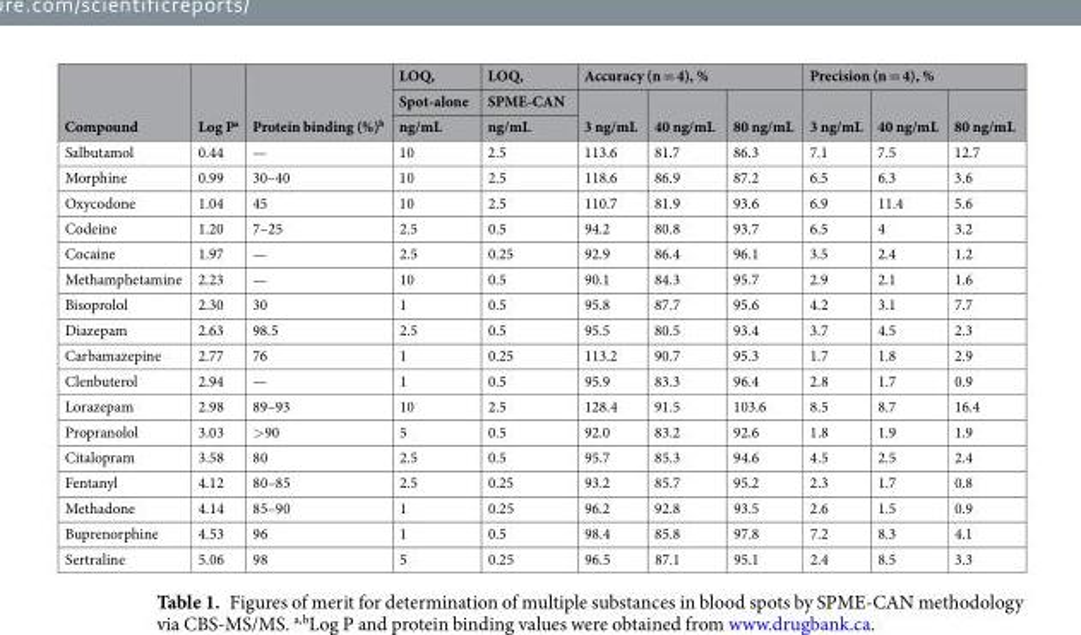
<table><thead><tr><td rowspan="3">Compound</td><td rowspan="3">Log P<sup>a</sup></td><td rowspan="3">Protein binding (%)<sup>b</sup></td><td rowspan="3">LOQ, Spot-alone ng/mL</td><td rowspan="3">LOQ, SPME-CAN ng/mL</td><td colspan="3">Accuracy (n = 4), %</td><td colspan="3">Precision (n = 4), %</td></tr><tr><td rowspan="2">3 ng/mL</td><td rowspan="2">40 ng/mL</td><td rowspan="2">80 ng/mL</td><td rowspan="2">3 ng/mL</td><td rowspan="2">40 ng/mL</td><td rowspan="2">80 ng/mL</td></tr><tr></tr></thead><tbody><tr><td>Salbutamol</td><td>0.44</td><td>—</td><td>10</td><td>2.5</td><td>113.6</td><td>81.7</td><td>86.3</td><td>7.1</td><td>7.5</td><td>12.7</td></tr><tr><td>Morphine</td><td>0.99</td><td>30–40</td><td>10</td><td>2.5</td><td>118.6</td><td>86.9</td><td>87.2</td><td>6.5</td><td>6.3</td><td>3.6</td></tr><tr><td>Oxycodone</td><td>1.04</td><td>45</td><td>10</td><td>2.5</td><td>110.7</td><td>81.9</td><td>93.6</td><td>6.9</td><td>11.4</td><td>5.6</td></tr><tr><td>Codeine</td><td>1.20</td><td>7–25</td><td>2.5</td><td>0.5</td><td>94.2</td><td>80.8</td><td>93.7</td><td>6.5</td><td>4</td><td>3.2</td></tr><tr><td>Cocaine</td><td>1.97</td><td>—</td><td>2.5</td><td>0.25</td><td>92.9</td><td>86.4</td><td>96.1</td><td>3.5</td><td>2.4</td><td>1.2</td></tr><tr><td>Methamphetamine</td><td>2.23</td><td>—</td><td>10</td><td>0.5</td><td>90.1</td><td>84.3</td><td>95.7</td><td>2.9</td><td>2.1</td><td>1.6</td></tr><tr><td>Bisoprolol</td><td>2.30</td><td>30</td><td>1</td><td>0.5</td><td>95.8</td><td>87.7</td><td>95.6</td><td>4.2</td><td>3.1</td><td>7.7</td></tr><tr><td>Diazepam</td><td>2.63</td><td>98.5</td><td>2.5</td><td>0.5</td><td>95.5</td><td>80.5</td><td>93.4</td><td>3.7</td><td>4.5</td><td>2.3</td></tr><tr><td>Carbamazepine</td><td>2.77</td><td>76</td><td>1</td><td>0.25</td><td>113.2</td><td>90.7</td><td>95.3</td><td>1.7</td><td>1.8</td><td>2.9</td></tr><tr><td>Clenbuterol</td><td>2.94</td><td>—</td><td>1</td><td>0.5</td><td>95.9</td><td>83.3</td><td>96.4</td><td>2.8</td><td>1.7</td><td>0.9</td></tr><tr><td>Lorazepam</td><td>2.98</td><td>89–93</td><td>10</td><td>2.5</td><td>128.4</td><td>91.5</td><td>103.6</td><td>8.5</td><td>8.7</td><td>16.4</td></tr><tr><td>Propranolol</td><td>3.03</td><td>&gt;90</td><td>5</td><td>0.5</td><td>92.0</td><td>83.2</td><td>92.6</td><td>1.8</td><td>1.9</td><td>1.9</td></tr><tr><td>Citalopram</td><td>3.58</td><td>80</td><td>2.5</td><td>0.5</td><td>95.7</td><td>85.3</td><td>94.6</td><td>4.5</td><td>2.5</td><td>2.4</td></tr><tr><td>Fentanyl</td><td>4.12</td><td>80–85</td><td>2.5</td><td>0.25</td><td>93.2</td><td>85.7</td><td>95.2</td><td>2.3</td><td>1.7</td><td>0.8</td></tr><tr><td>Methadone</td><td>4.14</td><td>85–90</td><td>1</td><td>0.25</td><td>96.2</td><td>92.8</td><td>93.5</td><td>2.6</td><td>1.5</td><td>0.9</td></tr><tr><td>Buprenorphine</td><td>4.53</td><td>96</td><td>1</td><td>0.5</td><td>98.4</td><td>85.8</td><td>97.8</td><td>7.2</td><td>8.3</td><td>4.1</td></tr><tr><td>Sertraline</td><td>5.06</td><td>98</td><td>5</td><td>0.25</td><td>96.5</td><td>87.1</td><td>95.1</td><td>2.4</td><td>8.5</td><td>3.3</td></tr></tbody></table>